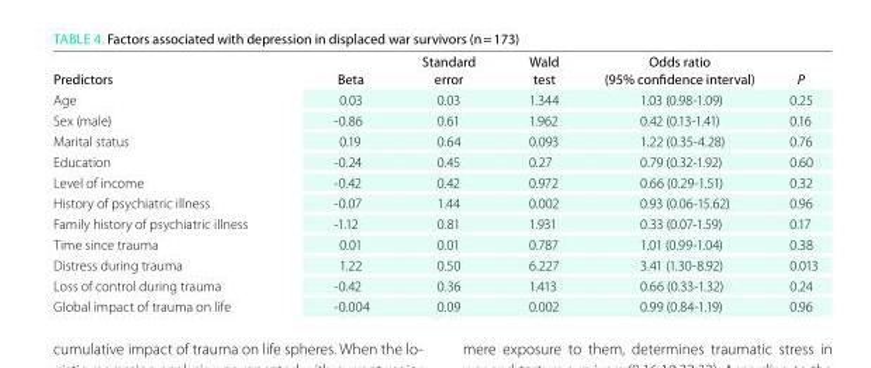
<table><thead><tr><td>Predictors</td><td>Beta</td><td>Standard error</td><td>Wald test</td><td>odds ratio (95% confidence interval)</td><td>P</td></tr></thead><tbody><tr><td>Age</td><td>0.03</td><td>0.03</td><td>1.344</td><td>1.03 (0.98-1.09)</td><td>0.25</td></tr><tr><td>Sex (male)</td><td>-0.86</td><td>0.61</td><td>1.962</td><td>0.42 (0.13-1.41)</td><td>0.16</td></tr><tr><td>Marital status</td><td>0.19</td><td>0.64</td><td>0.093</td><td>1.22 (0.35-4.28)</td><td>0.76</td></tr><tr><td>Education</td><td>-0.24</td><td>0.45</td><td>0.27</td><td>0.79 (0.32-1.92)</td><td>0.60</td></tr><tr><td>Level of income</td><td>-0.42</td><td>0.42</td><td>0.972</td><td>0.66 (0.29-1.51)</td><td>0.32</td></tr><tr><td>History of psychiatric illness</td><td>-0.07</td><td>1.44</td><td>0.002</td><td>0.93 (0.06-15.62)</td><td>0.96</td></tr><tr><td>Family history of psychiatric illness</td><td>-1.12</td><td>0.81</td><td>1.931</td><td>0.33 (0.07-1.59)</td><td>0.17</td></tr><tr><td>Time since trauma</td><td>0.01</td><td>0.01</td><td>0.787</td><td>1.01 (0.99-1.04)</td><td>0.38</td></tr><tr><td>Distress during trauma</td><td>1.22</td><td>0.50</td><td>6.227</td><td>3.41 (1.30-8.92)</td><td>0.013</td></tr><tr><td>Loss of control during trauma</td><td>-0.42</td><td>0.36</td><td>1.413</td><td>0.66 (0.33-1.32)</td><td>0.24</td></tr><tr><td>Global impact of trauma on life</td><td>-0.004</td><td>0.09</td><td>0.002</td><td>0.99 (0.84-1.19)</td><td>0.96</td></tr></tbody></table>